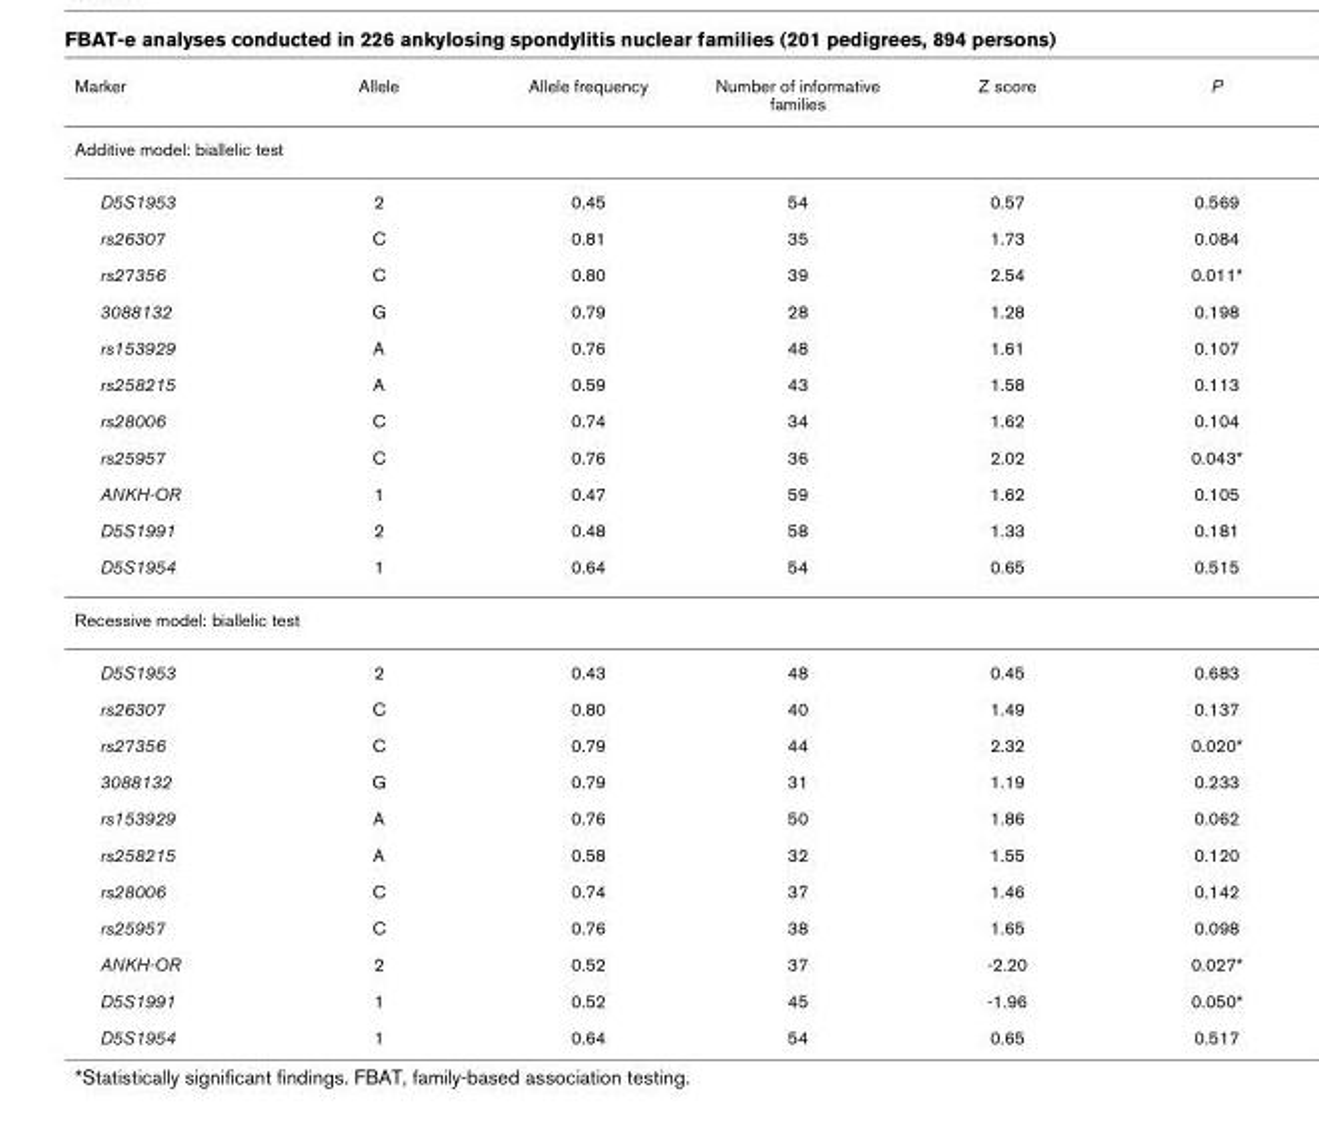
<table><thead><tr><td>Marker</td><td>Allele</td><td>Allele frequency</td><td>Number of informative families</td><td>Z score</td><td>P</td></tr></thead><tbody><tr><td colspan="6">Additive model: biallelic test</td></tr><tr><td>D5S1953</td><td>2</td><td>0.45</td><td>54</td><td>0.57</td><td>0.569</td></tr><tr><td>rs26307</td><td>C</td><td>0.81</td><td>35</td><td>1.73</td><td>0.084</td></tr><tr><td>rs27356</td><td>C</td><td>0.80</td><td>39</td><td>2.54</td><td>0.011*</td></tr><tr><td>3088132</td><td>G</td><td>0.79</td><td>28</td><td>1.28</td><td>0.198</td></tr><tr><td>rs153929</td><td>A</td><td>0.76</td><td>48</td><td>1.61</td><td>0.107</td></tr><tr><td>rs258215</td><td>A</td><td>0.59</td><td>43</td><td>1.58</td><td>0.113</td></tr><tr><td>rs28006</td><td>C</td><td>0.74</td><td>34</td><td>1.62</td><td>0.104</td></tr><tr><td>rs25957</td><td>C</td><td>0.76</td><td>36</td><td>2.02</td><td>0.043*</td></tr><tr><td>ANKH-OR</td><td>1</td><td>0.47</td><td>59</td><td>1.62</td><td>0.105</td></tr><tr><td>D5S1991</td><td>2</td><td>0.48</td><td>58</td><td>1.33</td><td>0.181</td></tr><tr><td>D5S1954</td><td>1</td><td>0.64</td><td>54</td><td>0.65</td><td>0.515</td></tr><tr><td colspan="6">Recessive model: biallelic test</td></tr><tr><td>D5S1953</td><td>2</td><td>0.43</td><td>48</td><td>0.45</td><td>0.683</td></tr><tr><td>rs26307</td><td>C</td><td>0.80</td><td>40</td><td>1.49</td><td>0.137</td></tr><tr><td>rs27356</td><td>C</td><td>0.79</td><td>44</td><td>2.32</td><td>0.020*</td></tr><tr><td>3088132</td><td>G</td><td>0.79</td><td>31</td><td>1.19</td><td>0.233</td></tr><tr><td>rs153929</td><td>A</td><td>0.76</td><td>50</td><td>1.86</td><td>0.062</td></tr><tr><td>rs258215</td><td>A</td><td>0.58</td><td>32</td><td>1.55</td><td>0.120</td></tr><tr><td>rs28006</td><td>C</td><td>0.74</td><td>37</td><td>1.46</td><td>0.142</td></tr><tr><td>rs25957</td><td>C</td><td>0.76</td><td>38</td><td>1.65</td><td>0.098</td></tr><tr><td>ANKH-OR</td><td>2</td><td>0.52</td><td>37</td><td>-2.20</td><td>0.027*</td></tr><tr><td>D5S1991</td><td>1</td><td>0.52</td><td>45</td><td>-1.96</td><td>0.050*</td></tr><tr><td>D5S1954</td><td>1</td><td>0.64</td><td>54</td><td>0.65</td><td>0.517</td></tr></tbody></table>